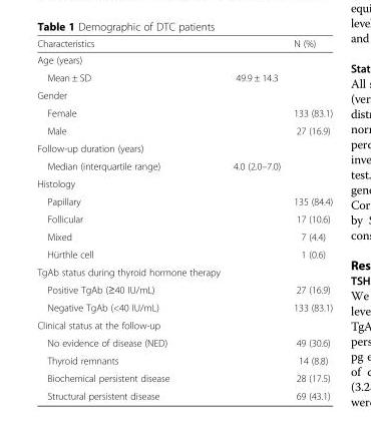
<table><thead><tr><td>Characteristics</td><td></td><td>N (%)</td></tr></thead><tbody><tr><td colspan="3">Age (years)</td></tr><tr><td>Mean ± SD</td><td>49.9 ± 14.3</td><td></td></tr><tr><td colspan="3">Gender</td></tr><tr><td>Female</td><td></td><td>133 (83.1)</td></tr><tr><td>Male</td><td></td><td>27 (16.9)</td></tr><tr><td colspan="3">Follow-up duration (years)</td></tr><tr><td>Median (interquartile range)</td><td>4.0 (2.0–7.0)</td><td></td></tr><tr><td colspan="3">Histology</td></tr><tr><td>Papillary</td><td></td><td>135 (84.4)</td></tr><tr><td>Follicular</td><td></td><td>17 (10.6)</td></tr><tr><td>Mixed</td><td></td><td>7 (4.4)</td></tr><tr><td>Hürthle cell</td><td></td><td>1 (0.6)</td></tr><tr><td colspan="3">TgAb status during thyroid hormone therapy</td></tr><tr><td>Positive TgAb (≥40 IU/mL)</td><td></td><td>27 (16.9)</td></tr><tr><td>Negative TgAb (&lt;40 IU/mL)</td><td></td><td>133 (83.1)</td></tr><tr><td colspan="3">Clinical status at the follow-up</td></tr><tr><td>No evidence of disease (NED)</td><td></td><td>49 (30.6)</td></tr><tr><td>Thyroid remnants</td><td></td><td>14 (8.8)</td></tr><tr><td>Biochemical persistent disease</td><td></td><td>28 (17.5)</td></tr><tr><td>Structural persistent disease</td><td></td><td>69 (43.1)</td></tr></tbody></table>